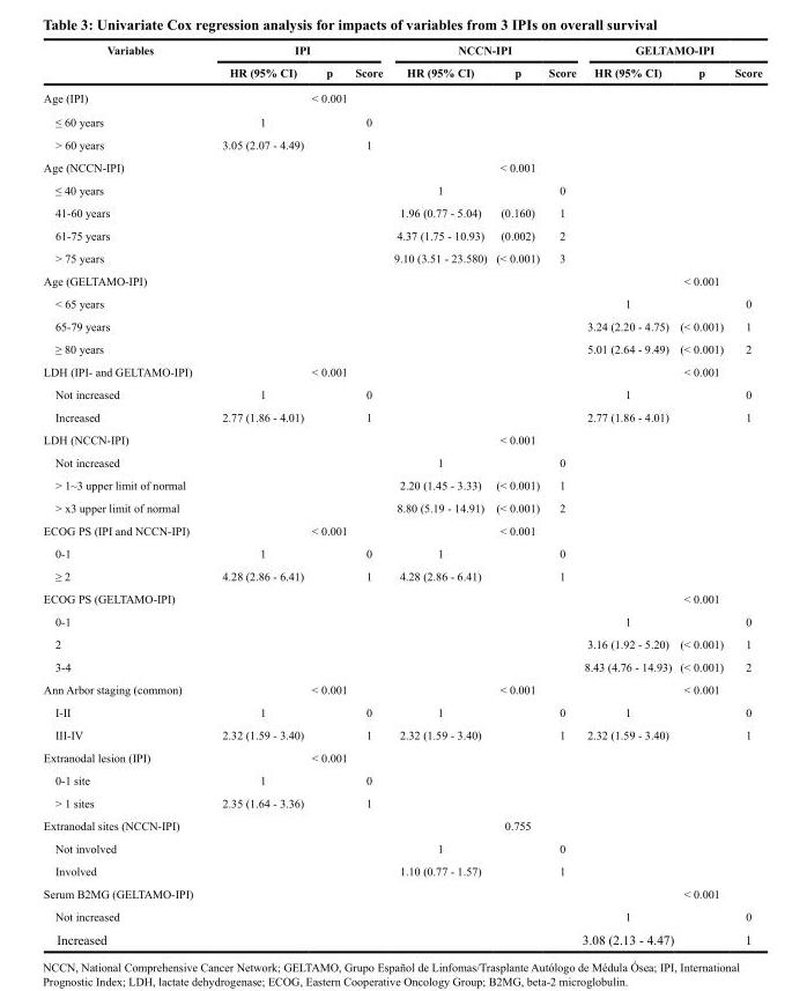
<table><thead><tr><td rowspan="2">Variables</td><td colspan="3">IPI</td><td colspan="3">NCCN-IPI</td><td colspan="3">GELTAMO-IPI</td></tr><tr><td>HR (95% CI)</td><td>p</td><td>Score</td><td>HR (95% CI)</td><td>p</td><td>Score</td><td>HR (95% CI)</td><td>p</td><td>Score</td></tr></thead><tbody><tr><td>Age (IPI)</td><td></td><td>&lt; 0.001</td><td></td><td></td><td></td><td></td><td></td><td></td><td></td></tr><tr><td>≤ 60 years</td><td>1</td><td></td><td>0</td><td></td><td></td><td></td><td></td><td></td><td></td></tr><tr><td>&gt; 60 years</td><td>3.05 (2.07 - 4.49)</td><td></td><td>1</td><td></td><td></td><td></td><td></td><td></td><td></td></tr><tr><td>Age (NCCN-IPI)</td><td></td><td></td><td></td><td></td><td>&lt; 0.001</td><td></td><td></td><td></td><td></td></tr><tr><td>≤ 40 years</td><td></td><td></td><td></td><td>1</td><td></td><td>0</td><td></td><td></td><td></td></tr><tr><td>41-60 years</td><td></td><td></td><td></td><td>1.96 (0.77 - 5.04)</td><td>(0.160)</td><td>1</td><td></td><td></td><td></td></tr><tr><td>61-75 years</td><td></td><td></td><td></td><td>4.37 (1.75 - 10.93)</td><td>(0.002)</td><td>2</td><td></td><td></td><td></td></tr><tr><td>&gt; 75 years</td><td></td><td></td><td></td><td>9.10 (3.51 - 23.580)</td><td>(&lt; 0.001)</td><td>3</td><td></td><td></td><td></td></tr><tr><td>Age (GELTAMO-IPI)</td><td></td><td></td><td></td><td></td><td></td><td></td><td></td><td>&lt; 0.001</td><td></td></tr><tr><td>&lt; 65 years</td><td></td><td></td><td></td><td></td><td></td><td></td><td>1</td><td></td><td>0</td></tr><tr><td>65-79 years</td><td></td><td></td><td></td><td></td><td></td><td></td><td>3.24 (2.20 - 4.75)</td><td>(&lt; 0.001)</td><td>1</td></tr><tr><td>≥ 80 years</td><td></td><td></td><td></td><td></td><td></td><td></td><td>5.01 (2.64 - 9.49)</td><td>(&lt; 0.001)</td><td>2</td></tr><tr><td>LDH (IPI- and GELTAMO-IPI)</td><td></td><td>&lt; 0.001</td><td></td><td></td><td></td><td></td><td></td><td>&lt; 0.001</td><td></td></tr><tr><td>Not increased</td><td>1</td><td></td><td>0</td><td></td><td></td><td></td><td>1</td><td></td><td>0</td></tr><tr><td>Increased</td><td>2.77 (1.86 - 4.01)</td><td></td><td>1</td><td></td><td></td><td></td><td>2.77 (1.86 - 4.01)</td><td></td><td>1</td></tr><tr><td>LDH (NCCN-IPI)</td><td></td><td></td><td></td><td></td><td>&lt; 0.001</td><td></td><td></td><td></td><td></td></tr><tr><td>Not increased</td><td></td><td></td><td></td><td>1</td><td></td><td>0</td><td></td><td></td><td></td></tr><tr><td>&gt; 1~3 upper limit of normal</td><td></td><td></td><td></td><td>2.20 (1.45 - 3.33)</td><td>(&lt; 0.001)</td><td>1</td><td></td><td></td><td></td></tr><tr><td>&gt; x3 upper limit of normal</td><td></td><td></td><td></td><td>8.80 (5.19 - 14.91)</td><td>(&lt; 0.001)</td><td>2</td><td></td><td></td><td></td></tr><tr><td>ECOG PS (IPI and NCCN-IPI)</td><td></td><td>&lt; 0.001</td><td></td><td></td><td>&lt; 0.001</td><td></td><td></td><td></td><td></td></tr><tr><td>0-1</td><td>1</td><td></td><td>0</td><td>1</td><td></td><td>0</td><td></td><td></td><td></td></tr><tr><td>≥ 2</td><td>4.28 (2.86 - 6.41)</td><td></td><td>1</td><td>4.28 (2.86 - 6.41)</td><td></td><td>1</td><td></td><td></td><td></td></tr><tr><td>ECOG PS (GELTAMO-IPI)</td><td></td><td></td><td></td><td></td><td></td><td></td><td></td><td>&lt; 0.001</td><td></td></tr><tr><td>0-1</td><td></td><td></td><td></td><td></td><td></td><td></td><td>1</td><td></td><td>0</td></tr><tr><td>2</td><td></td><td></td><td></td><td></td><td></td><td></td><td>3.16 (1.92 - 5.20)</td><td>(&lt; 0.001)</td><td>1</td></tr><tr><td>3-4</td><td></td><td></td><td></td><td></td><td></td><td></td><td>8.43 (4.76 - 14.93)</td><td>(&lt; 0.001)</td><td>2</td></tr><tr><td>Ann Arbor staging (common)</td><td></td><td>&lt; 0.001</td><td></td><td></td><td>&lt; 0.001</td><td></td><td></td><td>&lt; 0.001</td><td></td></tr><tr><td>I-II</td><td>1</td><td></td><td>0</td><td>1</td><td></td><td>0</td><td>1</td><td></td><td>0</td></tr><tr><td>III-IV</td><td>2.32 (1.59 - 3.40)</td><td></td><td>1</td><td>2.32 (1.59 - 3.40)</td><td></td><td>1</td><td>2.32 (1.59 - 3.40)</td><td></td><td>1</td></tr><tr><td>Extranodal lesion (IPI)</td><td></td><td>&lt; 0.001</td><td></td><td></td><td></td><td></td><td></td><td></td><td></td></tr><tr><td>0-1 site</td><td>1</td><td></td><td>0</td><td></td><td></td><td></td><td></td><td></td><td></td></tr><tr><td>&gt; 1 sites</td><td>2.35 (1.64 - 3.36)</td><td></td><td>1</td><td></td><td></td><td></td><td></td><td></td><td></td></tr><tr><td>Extranodal sites (NCCN-IPI)</td><td></td><td></td><td></td><td></td><td>0.755</td><td></td><td></td><td></td><td></td></tr><tr><td>Not involved</td><td></td><td></td><td></td><td>1</td><td></td><td>0</td><td></td><td></td><td></td></tr><tr><td>Involved</td><td></td><td></td><td></td><td>1.10 (0.77 - 1.57)</td><td></td><td>1</td><td></td><td></td><td></td></tr><tr><td>Serum B2MG (GELTAMO-IPI)</td><td></td><td></td><td></td><td></td><td></td><td></td><td></td><td>&lt; 0.001</td><td></td></tr><tr><td>Not increased</td><td></td><td></td><td></td><td></td><td></td><td></td><td>1</td><td></td><td>0</td></tr><tr><td>Increased</td><td></td><td></td><td></td><td></td><td></td><td></td><td>3.08 (2.13 - 4.47)</td><td></td><td>1</td></tr></tbody></table>